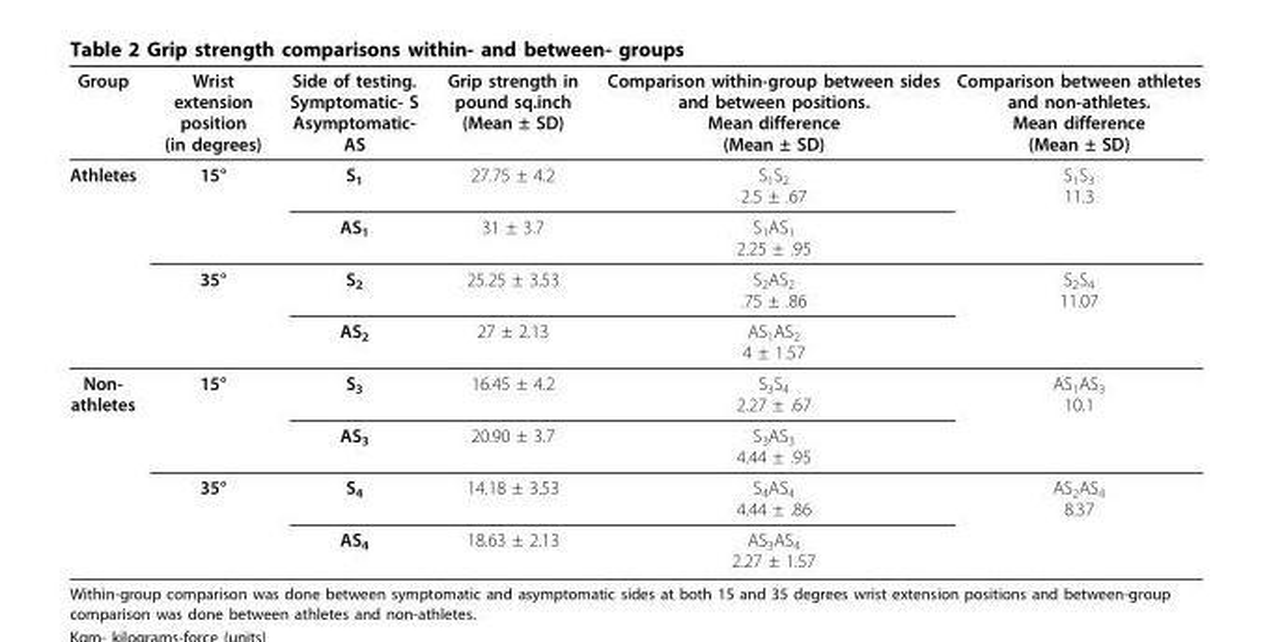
<table><thead><tr><td>Group</td><td>Wrist extension position (in degrees)</td><td>Side of testing. Symptomatic- S Asymptomatic- AS</td><td>Grip strength in pound sq.inch (Mean ± SD)</td><td>Comparison within-group between sides and between positions. Mean difference (Mean ± SD)</td><td>Comparison between athletes and non-athletes. Mean difference (Mean ± SD)</td></tr></thead><tbody><tr><td rowspan="4">Athletes</td><td>15°</td><td>S<sub>1</sub></td><td>27.75 ± 4.2</td><td>S<sub>1</sub>S<sub>2</sub> 2.5 ± .67</td><td>S<sub>1</sub>S<sub>3</sub> 11.3</td></tr><tr><td></td><td>AS<sub>1</sub></td><td>31 ± 3.7</td><td>S<sub>1</sub>AS<sub>1</sub> 2.25 ± .95</td><td></td></tr><tr><td>35°</td><td>S<sub>2</sub></td><td>25.25 ± 3.53</td><td>S<sub>2</sub>AS<sub>2</sub> .75 ± .86</td><td>S<sub>2</sub>S<sub>4</sub> 11.07</td></tr><tr><td></td><td>AS<sub>2</sub></td><td>27 ± 2.13</td><td>AS<sub>1</sub>AS<sub>2</sub> 4 ± 1.57</td><td></td></tr><tr><td rowspan="4">Non- athletes</td><td>15°</td><td>S<sub>3</sub></td><td>16.45 ± 4.2</td><td>S<sub>3</sub>S<sub>4</sub> 2.27 ± .67</td><td>AS<sub>1</sub>AS<sub>3</sub> 10.1</td></tr><tr><td></td><td>AS<sub>3</sub></td><td>20.90 ± 3.7</td><td>S<sub>3</sub>AS<sub>3</sub> 4.44 ± .95</td><td></td></tr><tr><td>35°</td><td>S<sub>4</sub></td><td>14.18 ± 3.53</td><td>S<sub>4</sub>AS<sub>4</sub> 4.44 ± .86</td><td>AS<sub>2</sub>AS<sub>4</sub> 8.37</td></tr><tr><td></td><td>AS<sub>4</sub></td><td>18.63 ± 2.13</td><td>AS<sub>3</sub>AS<sub>4</sub> 2.27 ± 1.57</td><td></td></tr></tbody></table>